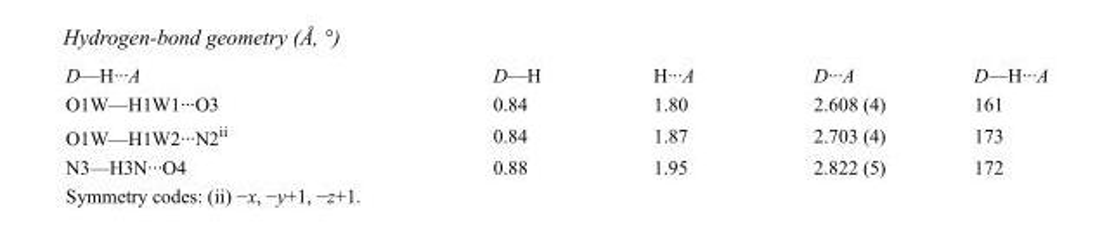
<table><tbody><tr><td>D—H···A</td><td>D—H</td><td>H···A</td><td>D···A</td><td>D—H···A</td></tr><tr><td>O1W—H1W1···O3</td><td>0.84</td><td>1.80</td><td>2.608 (4)</td><td>161</td></tr><tr><td>O1W—H1W2···N2<sup>ii</sup></td><td>0.84</td><td>1.87</td><td>2.703 (4)</td><td>173</td></tr><tr><td>N3—H3N···O4</td><td>0.88</td><td>1.95</td><td>2.822 (5)</td><td>172</td></tr></tbody></table>